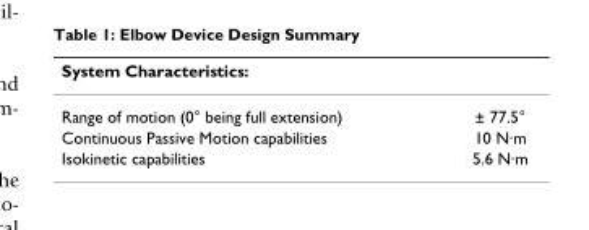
<table><thead><tr><td>System Characteristics:</td><td></td></tr></thead><tbody><tr><td>Range of motion (0° being full extension)</td><td>± 77.5°</td></tr><tr><td>Continuous Passive Motion capabilities</td><td>10 N·m</td></tr><tr><td>Isokinetic capabilities</td><td>5.6 N·m</td></tr></tbody></table>